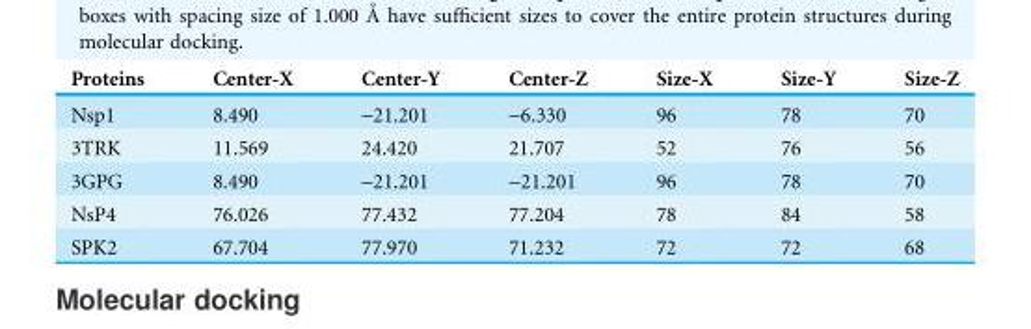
<table><thead><tr><td>Proteins</td><td>Center-X</td><td>Center-Y</td><td>Center-Z</td><td>Size-X</td><td>Size-Y</td><td>Size-Z</td></tr></thead><tbody><tr><td>Nsp1</td><td>8.490</td><td>-21.201</td><td>-6.330</td><td>96</td><td>78</td><td>70</td></tr><tr><td>3TRK</td><td>11.569</td><td>24.420</td><td>21.707</td><td>52</td><td>76</td><td>56</td></tr><tr><td>3GPG</td><td>8.490</td><td>-21.201</td><td>-21.201</td><td>96</td><td>78</td><td>70</td></tr><tr><td>NsP4</td><td>76.026</td><td>77.432</td><td>77.204</td><td>78</td><td>84</td><td>58</td></tr><tr><td>SPK2</td><td>67.704</td><td>77.970</td><td>71.232</td><td>72</td><td>72</td><td>68</td></tr></tbody></table>